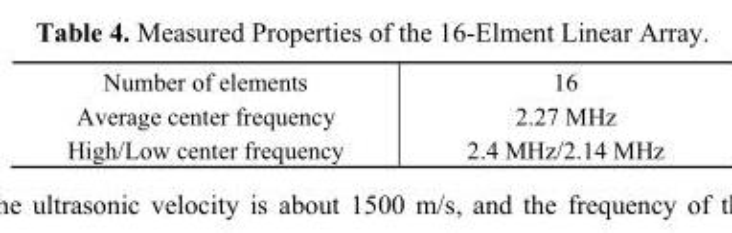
<table><tbody><tr><td>Number of elements</td><td>16</td></tr><tr><td>Average center frequency</td><td>2.27 MHz</td></tr><tr><td>High/Low center frequency</td><td>2.4 MHz/2.14 MHz</td></tr></tbody></table>